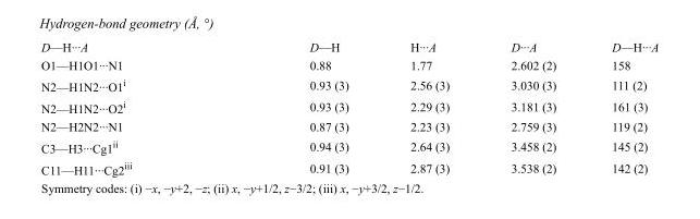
<table><tbody><tr><td>D—H···A</td><td>D—H</td><td>H···A</td><td>D···A</td><td>D—H···A</td></tr><tr><td>O1—H1O1···N1</td><td>0.88</td><td>1.77</td><td>2.602 (2)</td><td>158</td></tr><tr><td>N2—H1N2···O1<sup>i</sup></td><td>0.93 (3)</td><td>2.56 (3)</td><td>3.030 (3)</td><td>111 (2)</td></tr><tr><td>N2—H1N2···O2<sup>i</sup></td><td>0.93 (3)</td><td>2.29 (3)</td><td>3.181 (3)</td><td>161 (3)</td></tr><tr><td>N2—H2N2···N1</td><td>0.87 (3)</td><td>2.23 (3)</td><td>2.759 (3)</td><td>119 (2)</td></tr><tr><td>C3—H3···Cg1<sup>ii</sup></td><td>0.94 (3)</td><td>2.64 (3)</td><td>3.458 (2)</td><td>145 (2)</td></tr><tr><td>C11—H11···Cg2<sup>iii</sup></td><td>0.91 (3)</td><td>2.87 (3)</td><td>3.538 (2)</td><td>142 (2)</td></tr></tbody></table>